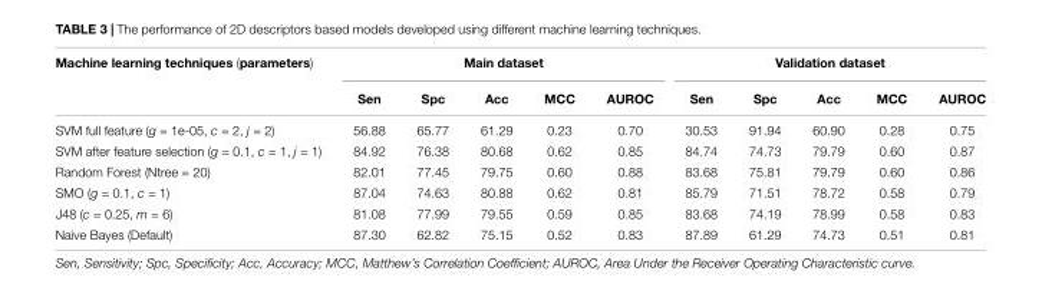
<table><thead><tr><td rowspan="2">Machine learning techniques (parameters)</td><td colspan="5">Main dataset</td><td colspan="5">Validation dataset</td></tr><tr><td>Sen</td><td>Spc</td><td>Acc</td><td>MCC</td><td>AUROC</td><td>Sen</td><td>Spc</td><td>Acc</td><td>MCC</td><td>AUROC</td></tr></thead><tbody><tr><td>SVM full feature (g = 1e-05, c = 2, j = 2)</td><td>56.88</td><td>65.77</td><td>61.29</td><td>0.23</td><td>0.70</td><td>30.53</td><td>91.94</td><td>60.90</td><td>0.28</td><td>0.75</td></tr><tr><td>SVM after feature selection (g = 0.1, c = 1, j = 1)</td><td>84.92</td><td>76.38</td><td>80.68</td><td>0.62</td><td>0.85</td><td>84.74</td><td>74.73</td><td>79.79</td><td>0.60</td><td>0.87</td></tr><tr><td>Random Forest (Ntree = 20)</td><td>82.01</td><td>77.45</td><td>79.75</td><td>0.60</td><td>0.88</td><td>83.68</td><td>75.81</td><td>79.79</td><td>0.60</td><td>0.86</td></tr><tr><td>SMO (g = 0.1, c = 1)</td><td>87.04</td><td>74.63</td><td>80.88</td><td>0.62</td><td>0.81</td><td>85.79</td><td>71.51</td><td>78.72</td><td>0.58</td><td>0.79</td></tr><tr><td>J48 (c = 0.25, m = 6)</td><td>81.08</td><td>77.99</td><td>79.55</td><td>0.59</td><td>0.85</td><td>83.68</td><td>74.19</td><td>78.99</td><td>0.58</td><td>0.83</td></tr><tr><td>Naive Bayes (Default)</td><td>87.30</td><td>62.82</td><td>75.15</td><td>0.52</td><td>0.83</td><td>87.89</td><td>61.29</td><td>74.73</td><td>0.51</td><td>0.81</td></tr></tbody></table>